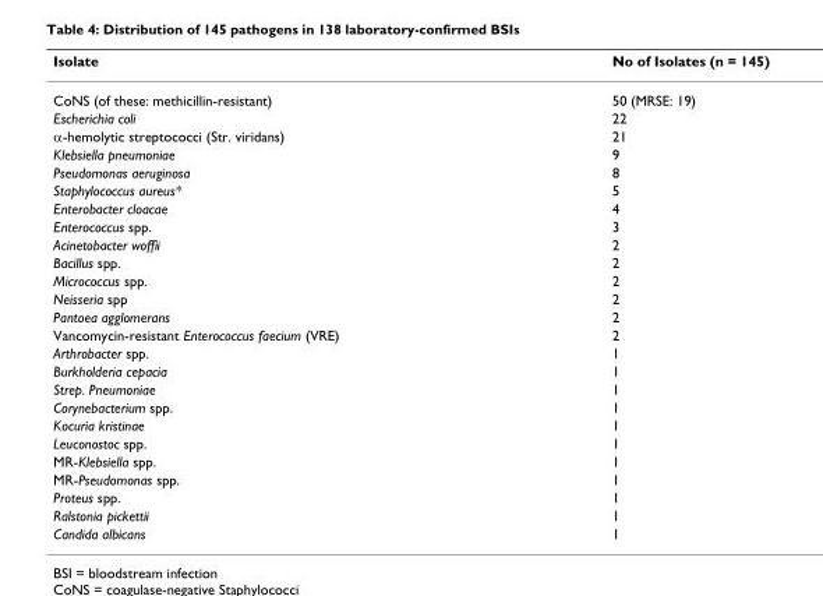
<table><thead><tr><td>Isolate</td><td>No of Isolates (n = 145)</td></tr></thead><tbody><tr><td>CoNS (of these: methicillin-resistant)</td><td>50 (MRSE: 19)</td></tr><tr><td>Escherichia coli</td><td>22</td></tr><tr><td>α-hemolytic streptococci (Str. viridans)</td><td>21</td></tr><tr><td>Klebsiella pneumoniae</td><td>9</td></tr><tr><td>Pseudomonas aeruginosa</td><td>8</td></tr><tr><td>Staphylococcus aureus*</td><td>5</td></tr><tr><td>Enterobacter cloacae</td><td>4</td></tr><tr><td>Enterococcus spp.</td><td>3</td></tr><tr><td>Acinetobacter woffii</td><td>2</td></tr><tr><td>Bacillus spp.</td><td>2</td></tr><tr><td>Micrococcus spp.</td><td>2</td></tr><tr><td>Neisseria spp</td><td>2</td></tr><tr><td>Pantoea agglomerans</td><td>2</td></tr><tr><td>Vancomycin-resistant Enterococcus faecium (VRE)</td><td>2</td></tr><tr><td>Arthrobacter spp.</td><td>1</td></tr><tr><td>Burkholderia cepacia</td><td>1</td></tr><tr><td>Strep. Pneumoniae</td><td>1</td></tr><tr><td>Corynebacterium spp.</td><td>1</td></tr><tr><td>Kocuria kristinae</td><td>1</td></tr><tr><td>Leuconostoc spp.</td><td>1</td></tr><tr><td>MR-Klebsiella spp.</td><td>1</td></tr><tr><td>MR-Pseudomonas spp.</td><td>1</td></tr><tr><td>Proteus spp.</td><td>1</td></tr><tr><td>Ralstonia pickettii</td><td>1</td></tr><tr><td>Candida albicans</td><td>1</td></tr></tbody></table>